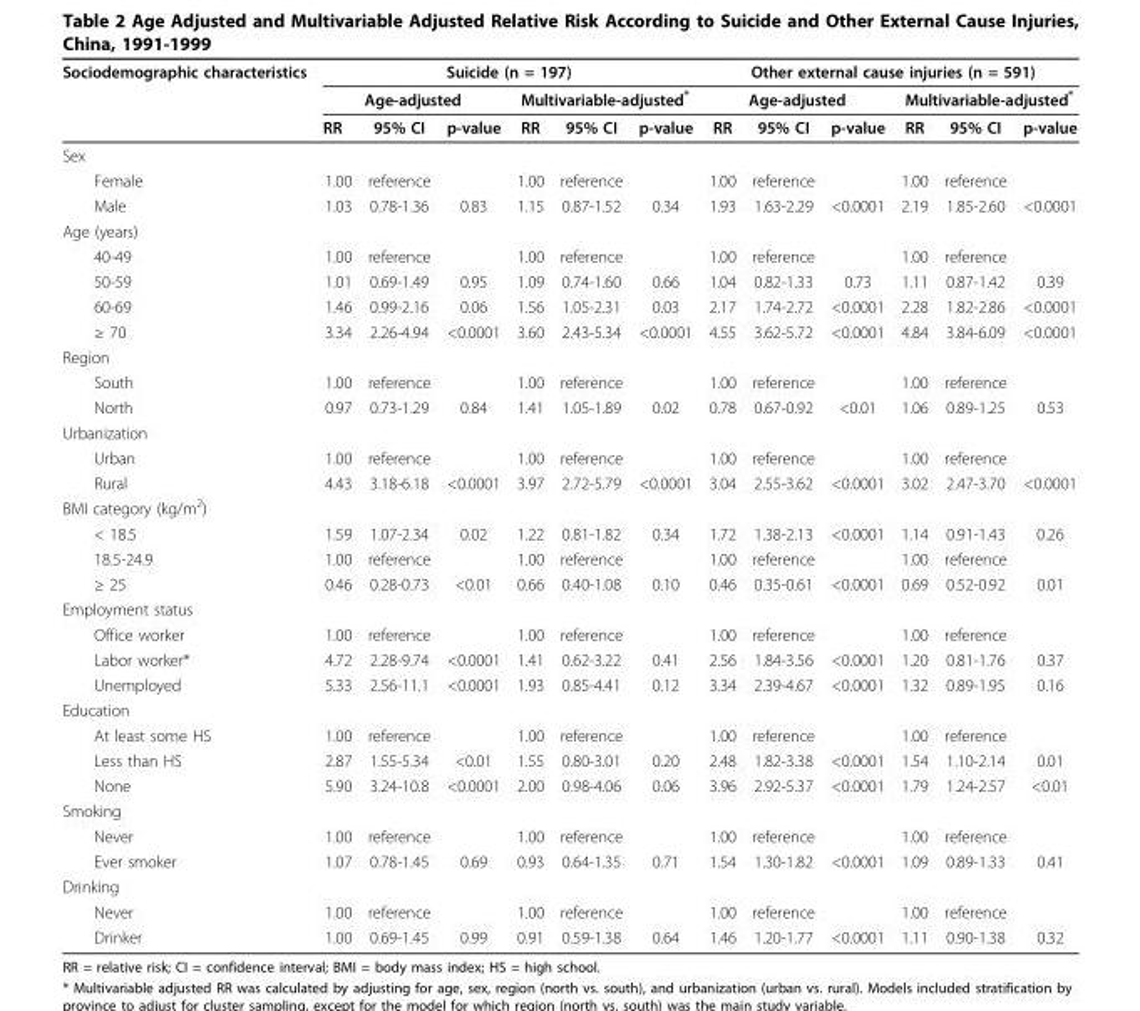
<table><thead><tr><td rowspan="3">Sociodemographic characteristics</td><td colspan="6">Suicide (n = 197)</td><td colspan="6">Other external cause injuries (n = 591)</td></tr><tr><td colspan="3">Age-adjusted</td><td colspan="3">Multivariable-adjusted*</td><td colspan="3">Age-adjusted</td><td colspan="3">Multivariable-adjusted*</td></tr><tr><td>RR</td><td>95% CI</td><td>p-value</td><td>RR</td><td>95% CI</td><td>p-value</td><td>RR</td><td>95% CI</td><td>p-value</td><td>RR</td><td>95% CI</td><td>p-value</td></tr></thead><tbody><tr><td colspan="13">Sex</td></tr><tr><td>Female</td><td>1.00</td><td>reference</td><td></td><td>1.00</td><td>reference</td><td></td><td>1.00</td><td>reference</td><td></td><td>1.00</td><td>reference</td><td></td></tr><tr><td>Male</td><td>1.03</td><td>0.78-1.36</td><td>0.83</td><td>1.15</td><td>0.87-1.52</td><td>0.34</td><td>1.93</td><td>1.63-2.29</td><td>&lt;0.0001</td><td>2.19</td><td>1.85-2.60</td><td>&lt;0.0001</td></tr><tr><td colspan="13">Age (years)</td></tr><tr><td>40-49</td><td>1.00</td><td>reference</td><td></td><td>1.00</td><td>reference</td><td></td><td>1.00</td><td>reference</td><td></td><td>1.00</td><td>reference</td><td></td></tr><tr><td>50-59</td><td>1.01</td><td>0.69-1.49</td><td>0.95</td><td>1.09</td><td>0.74-1.60</td><td>0.66</td><td>1.04</td><td>0.82-1.33</td><td>0.73</td><td>1.11</td><td>0.87-1.42</td><td>0.39</td></tr><tr><td>60-69</td><td>1.46</td><td>0.99-2.16</td><td>0.06</td><td>1.56</td><td>1.05-2.31</td><td>0.03</td><td>2.17</td><td>1.74-2.72</td><td>&lt;0.0001</td><td>2.28</td><td>1.82-2.86</td><td>&lt;0.0001</td></tr><tr><td>≥ 70</td><td>3.34</td><td>2.26-4.94</td><td>&lt;0.0001</td><td>3.60</td><td>2.43-5.34</td><td>&lt;0.0001</td><td>4.55</td><td>3.62-5.72</td><td>&lt;0.0001</td><td>4.84</td><td>3.84-6.09</td><td>&lt;0.0001</td></tr><tr><td colspan="13">Region</td></tr><tr><td>South</td><td>1.00</td><td>reference</td><td></td><td>1.00</td><td>reference</td><td></td><td>1.00</td><td>reference</td><td></td><td>1.00</td><td>reference</td><td></td></tr><tr><td>North</td><td>0.97</td><td>0.73-1.29</td><td>0.84</td><td>1.41</td><td>1.05-1.89</td><td>0.02</td><td>0.78</td><td>0.67-0.92</td><td>&lt;0.01</td><td>1.06</td><td>0.89-1.25</td><td>0.53</td></tr><tr><td colspan="13">Urbanization</td></tr><tr><td>Urban</td><td>1.00</td><td>reference</td><td></td><td>1.00</td><td>reference</td><td></td><td>1.00</td><td>reference</td><td></td><td>1.00</td><td>reference</td><td></td></tr><tr><td>Rural</td><td>4.43</td><td>3.18-6.18</td><td>&lt;0.0001</td><td>3.97</td><td>2.72-5.79</td><td>&lt;0.0001</td><td>3.04</td><td>2.55-3.62</td><td>&lt;0.0001</td><td>3.02</td><td>2.47-3.70</td><td>&lt;0.0001</td></tr><tr><td colspan="13">BMI category (kg/m<sup>2</sup>)</td></tr><tr><td>&lt; 18.5</td><td>1.59</td><td>1.07-2.34</td><td>0.02</td><td>1.22</td><td>0.81-1.82</td><td>0.34</td><td>1.72</td><td>1.38-2.13</td><td>&lt;0.0001</td><td>1.14</td><td>0.91-1.43</td><td>0.26</td></tr><tr><td>18.5-24.9</td><td>1.00</td><td>reference</td><td></td><td>1.00</td><td>reference</td><td></td><td>1.00</td><td>reference</td><td></td><td>1.00</td><td>reference</td><td></td></tr><tr><td>≥ 25</td><td>0.46</td><td>0.28-0.73</td><td>&lt;0.01</td><td>0.66</td><td>0.40-1.08</td><td>0.10</td><td>0.46</td><td>0.35-0.61</td><td>&lt;0.0001</td><td>0.69</td><td>0.52-0.92</td><td>0.01</td></tr><tr><td colspan="13">Employment status</td></tr><tr><td>Office worker</td><td>1.00</td><td>reference</td><td></td><td>1.00</td><td>reference</td><td></td><td>1.00</td><td>reference</td><td></td><td>1.00</td><td>reference</td><td></td></tr><tr><td>Labor worker*</td><td>4.72</td><td>2.28-9.74</td><td>&lt;0.0001</td><td>1.41</td><td>0.62-3.22</td><td>0.41</td><td>2.56</td><td>1.84-3.56</td><td>&lt;0.0001</td><td>1.20</td><td>0.81-1.76</td><td>0.37</td></tr><tr><td>Unemployed</td><td>5.33</td><td>2.56-11.1</td><td>&lt;0.0001</td><td>1.93</td><td>0.85-4.41</td><td>0.12</td><td>3.34</td><td>2.39-4.67</td><td>&lt;0.0001</td><td>1.32</td><td>0.89-1.95</td><td>0.16</td></tr><tr><td colspan="13">Education</td></tr><tr><td>At least some HS</td><td>1.00</td><td>reference</td><td></td><td>1.00</td><td>reference</td><td></td><td>1.00</td><td>reference</td><td></td><td>1.00</td><td>reference</td><td></td></tr><tr><td>Less than HS</td><td>2.87</td><td>1.55-5.34</td><td>&lt;0.01</td><td>1.55</td><td>0.80-3.01</td><td>0.20</td><td>2.48</td><td>1.82-3.38</td><td>&lt;0.0001</td><td>1.54</td><td>1.10-2.14</td><td>0.01</td></tr><tr><td>None</td><td>5.90</td><td>3.24-10.8</td><td>&lt;0.0001</td><td>2.00</td><td>0.98-4.06</td><td>0.06</td><td>3.96</td><td>2.92-5.37</td><td>&lt;0.0001</td><td>1.79</td><td>1.24-2.57</td><td>&lt;0.01</td></tr><tr><td colspan="13">Smoking</td></tr><tr><td>Never</td><td>1.00</td><td>reference</td><td></td><td>1.00</td><td>reference</td><td></td><td>1.00</td><td>reference</td><td></td><td>1.00</td><td>reference</td><td></td></tr><tr><td>Ever smoker</td><td>1.07</td><td>0.78-1.45</td><td>0.69</td><td>0.93</td><td>0.64-1.35</td><td>0.71</td><td>1.54</td><td>1.30-1.82</td><td>&lt;0.0001</td><td>1.09</td><td>0.89-1.33</td><td>0.41</td></tr><tr><td colspan="13">Drinking</td></tr><tr><td>Never</td><td>1.00</td><td>reference</td><td></td><td>1.00</td><td>reference</td><td></td><td>1.00</td><td>reference</td><td></td><td>1.00</td><td>reference</td><td></td></tr><tr><td>Drinker</td><td>1.00</td><td>0.69-1.45</td><td>0.99</td><td>0.91</td><td>0.59-1.38</td><td>0.64</td><td>1.46</td><td>1.20-1.77</td><td>&lt;0.0001</td><td>1.11</td><td>0.90-1.38</td><td>0.32</td></tr></tbody></table>